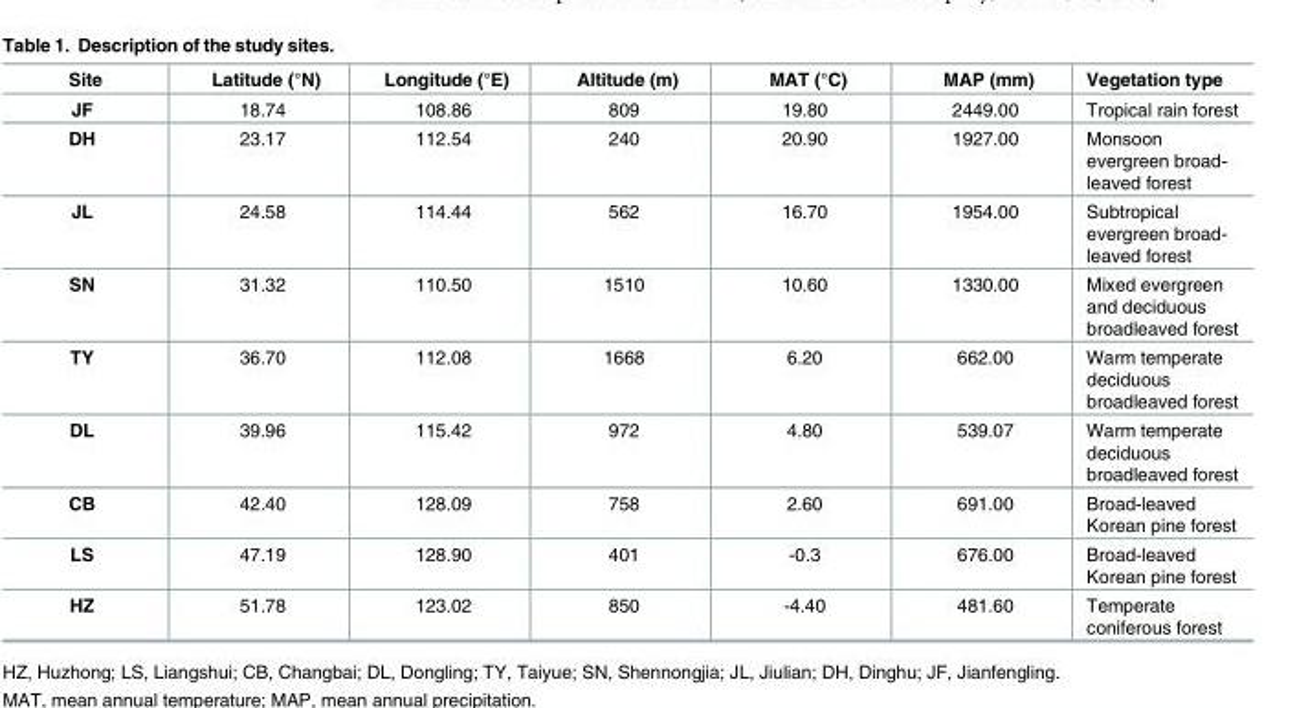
<table><thead><tr><td>Site</td><td>Latitude (°N)</td><td>Longitude (°E)</td><td>Altitude (m)</td><td>MAT (°C)</td><td>MAP (mm)</td><td>Vegetation type</td></tr></thead><tbody><tr><td>JF</td><td>18.74</td><td>108.86</td><td>809</td><td>19.80</td><td>2449.00</td><td>Tropical rain forest</td></tr><tr><td>DH</td><td>23.17</td><td>112.54</td><td>240</td><td>20.90</td><td>1927.00</td><td>Monsoon evergreen broad- leaved forest</td></tr><tr><td>JL</td><td>24.58</td><td>114.44</td><td>562</td><td>16.70</td><td>1954.00</td><td>Subtropical evergreen broad- leaved forest</td></tr><tr><td>SN</td><td>31.32</td><td>110.50</td><td>1510</td><td>10.60</td><td>1330.00</td><td>Mixed evergreen and deciduous broadleaved forest</td></tr><tr><td>TY</td><td>36.70</td><td>112.08</td><td>1668</td><td>6.20</td><td>662.00</td><td>Warm temperate deciduous broadleaved forest</td></tr><tr><td>DL</td><td>39.96</td><td>115.42</td><td>972</td><td>4.80</td><td>539.07</td><td>Warm temperate deciduous broadleaved forest</td></tr><tr><td>CB</td><td>42.40</td><td>128.09</td><td>758</td><td>2.60</td><td>691.00</td><td>Broad-leaved Korean pine forest</td></tr><tr><td>LS</td><td>47.19</td><td>128.90</td><td>401</td><td>-0.3</td><td>676.00</td><td>Broad-leaved Korean pine forest</td></tr><tr><td>HZ</td><td>51.78</td><td>123.02</td><td>850</td><td>-4.40</td><td>481.60</td><td>Temperate coniferous forest</td></tr></tbody></table>